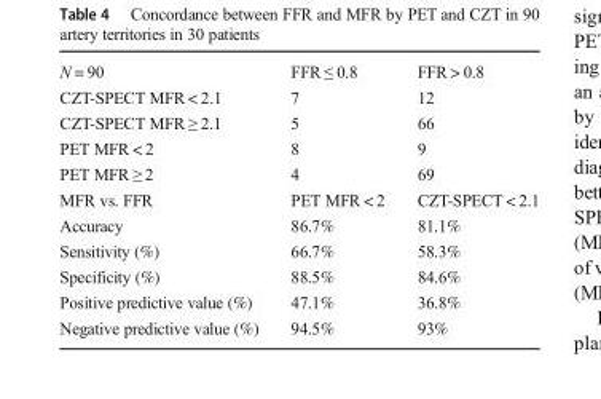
<table><tbody><tr><td>N = 90</td><td>FFR ≤ 0.8</td><td>FFR &gt; 0.8</td></tr><tr><td>CZT-SPECT MFR &lt; 2.1</td><td>7</td><td>12</td></tr><tr><td>CZT-SPECT MFR ≥ 2.1</td><td>5</td><td>66</td></tr><tr><td>PET MFR &lt; 2</td><td>8</td><td>9</td></tr><tr><td>PET MFR ≥ 2</td><td>4</td><td>69</td></tr><tr><td>MFR vs. FFR</td><td>PET MFR &lt; 2</td><td>CZT-SPECT &lt; 2.1</td></tr><tr><td>Accuracy</td><td>86.7%</td><td>81.1%</td></tr><tr><td>Sensitivity (%)</td><td>66.7%</td><td>58.3%</td></tr><tr><td>Specificity (%)</td><td>88.5%</td><td>84.6%</td></tr><tr><td>Positive predictive value (%)</td><td>47.1%</td><td>36.8%</td></tr><tr><td>Negative predictive value (%)</td><td>94.5%</td><td>93%</td></tr></tbody></table>